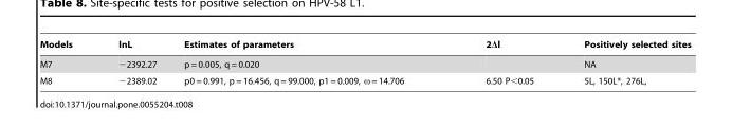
<table><thead><tr><td>Models</td><td>lnL</td><td>Estimates of parameters</td><td>2Δl</td><td>Positively selected sites</td></tr></thead><tbody><tr><td>M7</td><td>−2392.27</td><td>p = 0.005, q = 0.020</td><td></td><td>NA</td></tr><tr><td>M8</td><td>−2389.02</td><td>p0 = 0.991, p = 16.456, q = 99.000, p1 = 0.009, ω = 14.706</td><td>6.50 P&lt;0.05</td><td>5L, 150L*, 276L,</td></tr></tbody></table>